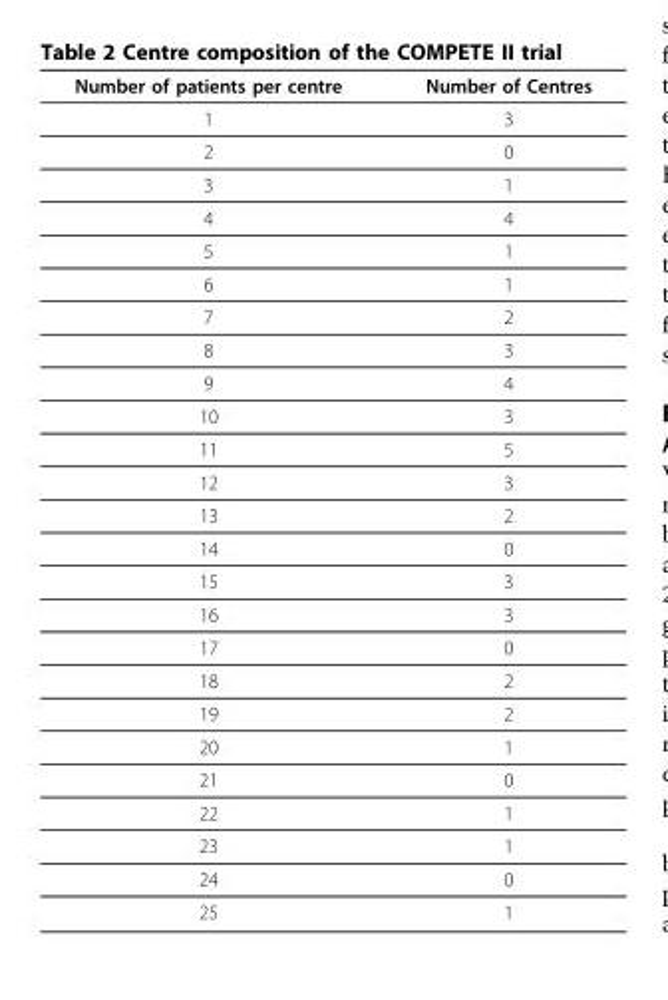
<table><thead><tr><td>Number of patients per centre</td><td>Number of Centres</td></tr></thead><tbody><tr><td>1</td><td>3</td></tr><tr><td>2</td><td>0</td></tr><tr><td>3</td><td>1</td></tr><tr><td>4</td><td>4</td></tr><tr><td>5</td><td>1</td></tr><tr><td>6</td><td>1</td></tr><tr><td>7</td><td>2</td></tr><tr><td>8</td><td>3</td></tr><tr><td>9</td><td>4</td></tr><tr><td>10</td><td>3</td></tr><tr><td>11</td><td>5</td></tr><tr><td>12</td><td>3</td></tr><tr><td>13</td><td>2</td></tr><tr><td>14</td><td>0</td></tr><tr><td>15</td><td>3</td></tr><tr><td>16</td><td>3</td></tr><tr><td>17</td><td>0</td></tr><tr><td>18</td><td>2</td></tr><tr><td>19</td><td>2</td></tr><tr><td>20</td><td>1</td></tr><tr><td>21</td><td>0</td></tr><tr><td>22</td><td>1</td></tr><tr><td>23</td><td>1</td></tr><tr><td>24</td><td>0</td></tr><tr><td>25</td><td>1</td></tr></tbody></table>